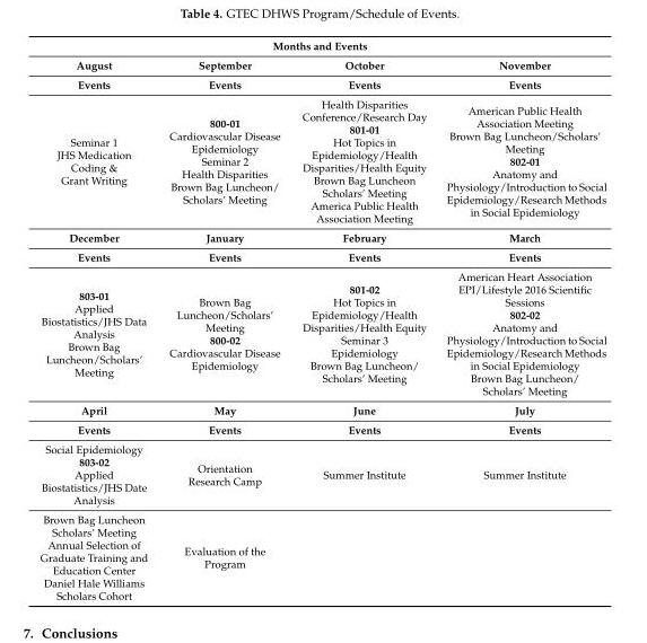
<table><thead><tr><td colspan="4">Months and Events</td></tr><tr><td>August</td><td>September</td><td>October</td><td>November</td></tr></thead><tbody><tr><td>Events</td><td>Events</td><td>Events</td><td>Events</td></tr><tr><td>Seminar 1 JHS Medication Coding &amp; Grant Writing</td><td>800-01 Cardiovascular Disease Epidemiology Seminar 2 Health Disparities Brown Bag Luncheon/ Scholars’ Meeting</td><td>Health Disparities Conference/Research Day 801-01 Hot Topics in Epidemiology/Health Disparities/Health Equity Brown Bag Luncheon Scholars’ Meeting America Public Health Association Meeting</td><td>American Public Health Association Meeting Brown Bag Luncheon/Scholars’ Meeting 802-01 Anatomy and Physiology/Introduction to Social Epidemiology/Research Methods in Social Epidemiology</td></tr><tr><td>December</td><td>January</td><td>February</td><td>March</td></tr><tr><td>Events</td><td>Events</td><td>Events</td><td>Events</td></tr><tr><td>803-01 Applied Biostatistics/JHS Data Analysis Brown Bag Luncheon/Scholars’ Meeting</td><td>Brown Bag Luncheon/Scholars’ Meeting 800-02 Cardiovascular Disease Epidemiology</td><td>801-02 Hot Topics in Epidemiology/Health Disparities/Health Equity Seminar 3 Epidemiology Brown Bag Luncheon/ Scholars’ Meeting</td><td>American Heart Association EPI/Lifestyle 2016 Scientific Sessions 802-02 Anatomy and Physiology/Introduction to Social Epidemiology/Research Methods in Social Epidemiology Brown Bag Luncheon/ Scholars’ Meeting</td></tr><tr><td>April</td><td>May</td><td>June</td><td>July</td></tr><tr><td>Events</td><td>Events</td><td>Events</td><td>Events</td></tr><tr><td>Social Epidemiology 803-02 Applied Biostatistics/JHS Date Analysis</td><td>Orientation Research Camp</td><td>Summer Institute</td><td>Summer Institute</td></tr><tr><td>Brown Bag Luncheon Scholars’ Meeting Annual Selection of Graduate Training and Education Center Daniel Hale Williams Scholars Cohort</td><td>Evaluation of the Program</td><td></td><td></td></tr></tbody></table>